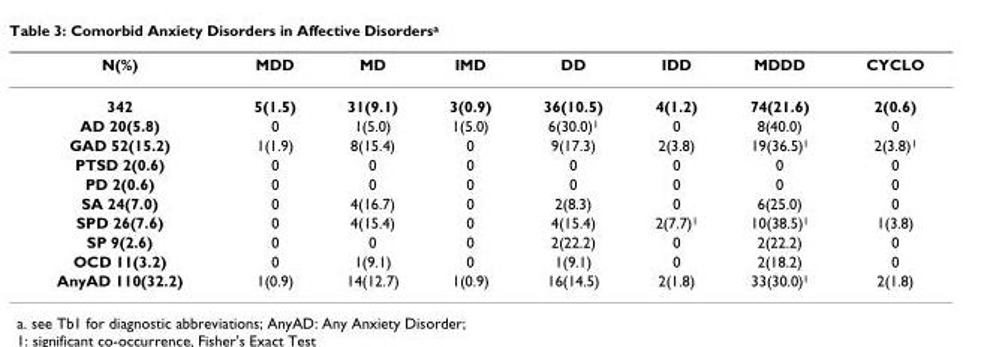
<table><thead><tr><td>N(%)</td><td>MDD</td><td>MD</td><td>IMD</td><td>DD</td><td>IDD</td><td>MDDD</td><td>CYCLO</td></tr></thead><tbody><tr><td>342</td><td>5(1.5)</td><td>31(9.1)</td><td>3(0.9)</td><td>36(10.5)</td><td>4(1.2)</td><td>74(21.6)</td><td>2(0.6)</td></tr><tr><td>AD 20(5.8)</td><td>0</td><td>1(5.0)</td><td>1(5.0)</td><td>6(30.0)<sup>1</sup></td><td>0</td><td>8(40.0)</td><td>0</td></tr><tr><td>GAD 52(15.2)</td><td>1(1.9)</td><td>8(15.4)</td><td>0</td><td>9(17.3)</td><td>2(3.8)</td><td>19(36.5)<sup>1</sup></td><td>2(3.8)<sup>1</sup></td></tr><tr><td>PTSD 2(0.6)</td><td>0</td><td>0</td><td>0</td><td>0</td><td>0</td><td>0</td><td>0</td></tr><tr><td>PD 2(0.6)</td><td>0</td><td>0</td><td>0</td><td>0</td><td>0</td><td>0</td><td>0</td></tr><tr><td>SA 24(7.0)</td><td>0</td><td>4(16.7)</td><td>0</td><td>2(8.3)</td><td>0</td><td>6(25.0)</td><td>0</td></tr><tr><td>SPD 26(7.6)</td><td>0</td><td>4(15.4)</td><td>0</td><td>4(15.4)</td><td>2(7.7)<sup>1</sup></td><td>10(38.5)<sup>1</sup></td><td>1(3.8)</td></tr><tr><td>SP 9(2.6)</td><td>0</td><td>0</td><td>0</td><td>2(22.2)</td><td>0</td><td>2(22.2)</td><td>0</td></tr><tr><td>OCD 11(3.2)</td><td>0</td><td>1(9.1)</td><td>0</td><td>1(9.1)</td><td>0</td><td>2(18.2)</td><td>0</td></tr><tr><td>AnyAD 110(32.2)</td><td>1(0.9)</td><td>14(12.7)</td><td>1(0.9)</td><td>16(14.5)</td><td>2(1.8)</td><td>33(30.0)<sup>1</sup></td><td>2(1.8)</td></tr></tbody></table>